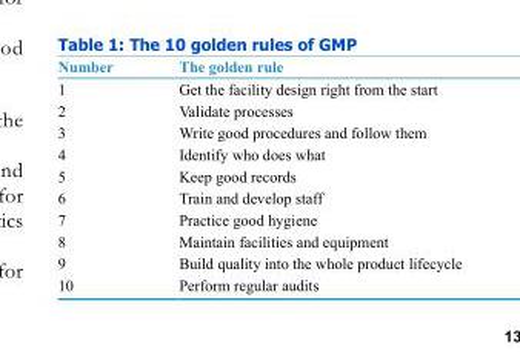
<table><thead><tr><td>Number</td><td>The golden rule</td></tr></thead><tbody><tr><td>1</td><td>Get the facility design right from the start</td></tr><tr><td>2</td><td>Validate processes</td></tr><tr><td>3</td><td>Write good procedures and follow them</td></tr><tr><td>4</td><td>Identify who does what</td></tr><tr><td>5</td><td>Keep good records</td></tr><tr><td>6</td><td>Train and develop staff</td></tr><tr><td>7</td><td>Practice good hygiene</td></tr><tr><td>8</td><td>Maintain facilities and equipment</td></tr><tr><td>9</td><td>Build quality into the whole product lifecycle</td></tr><tr><td>10</td><td>Perform regular audits</td></tr></tbody></table>